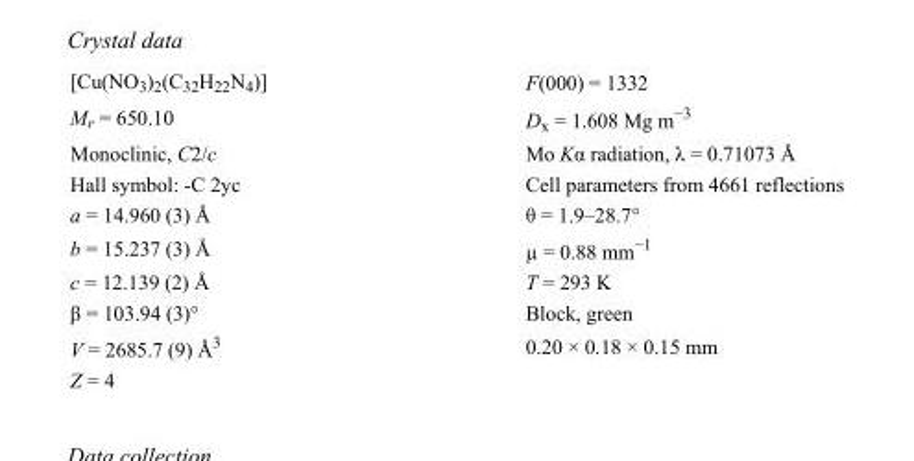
<table><tbody><tr><td>[Cu(NO<sub>3</sub>)<sub>2</sub>(C<sub>32</sub>H<sub>22</sub>N<sub>4</sub>)]</td><td>F(000) = 1332</td></tr><tr><td>M<sub>r</sub> = 650.10</td><td>D<sub>x</sub> = 1.608 Mg m<sup>−3</sup></td></tr><tr><td>Monoclinic, C2/c</td><td>Mo Kα radiation, λ = 0.71073 Å</td></tr><tr><td>Hall symbol: -C 2yc</td><td>Cell parameters from 4661 reflections</td></tr><tr><td>a = 14.960 (3) Å</td><td>θ = 1.9–28.7°</td></tr><tr><td>b = 15.237 (3) Å</td><td>µ = 0.88 mm<sup>−1</sup></td></tr><tr><td>c = 12.139 (2) Å</td><td>T = 293 K</td></tr><tr><td>β = 103.94 (3)°</td><td>Block, green</td></tr><tr><td>V = 2685.7 (9) Å<sup>3</sup></td><td>0.20 × 0.18 × 0.15 mm</td></tr><tr><td>Z = 4</td><td></td></tr></tbody></table>